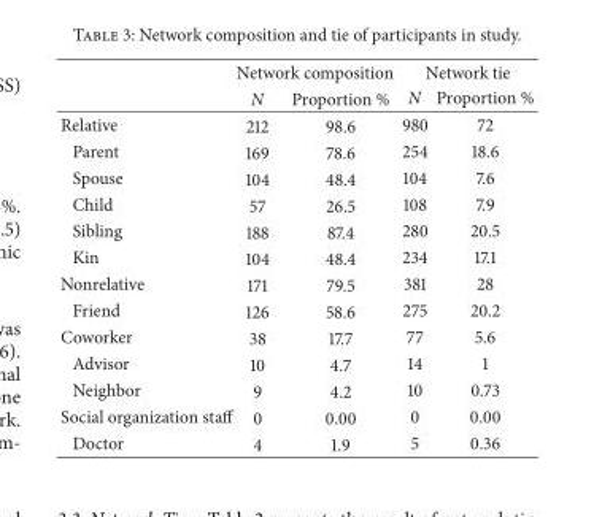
<table><thead><tr><td rowspan="2"></td><td colspan="2">Network composition</td><td colspan="2">Network tie</td></tr><tr><td>N</td><td>Proportion %</td><td>N</td><td>Proportion %</td></tr></thead><tbody><tr><td>Relative</td><td>212</td><td>98.6</td><td>980</td><td>72</td></tr><tr><td>Parent</td><td>169</td><td>78.6</td><td>254</td><td>18.6</td></tr><tr><td>Spouse</td><td>104</td><td>48.4</td><td>104</td><td>7.6</td></tr><tr><td>Child</td><td>57</td><td>26.5</td><td>108</td><td>7.9</td></tr><tr><td>Sibling</td><td>188</td><td>87.4</td><td>280</td><td>20.5</td></tr><tr><td>Kin</td><td>104</td><td>48.4</td><td>234</td><td>17.1</td></tr><tr><td>Nonrelative</td><td>171</td><td>79.5</td><td>381</td><td>28</td></tr><tr><td>Friend</td><td>126</td><td>58.6</td><td>275</td><td>20.2</td></tr><tr><td>Coworker</td><td>38</td><td>17.7</td><td>77</td><td>5.6</td></tr><tr><td>Advisor</td><td>10</td><td>4.7</td><td>14</td><td>1</td></tr><tr><td>Neighbor</td><td>9</td><td>4.2</td><td>10</td><td>0.73</td></tr><tr><td>Social organization staff</td><td>0</td><td>0.00</td><td>0</td><td>0.00</td></tr><tr><td>Doctor</td><td>4</td><td>1.9</td><td>5</td><td>0.36</td></tr></tbody></table>